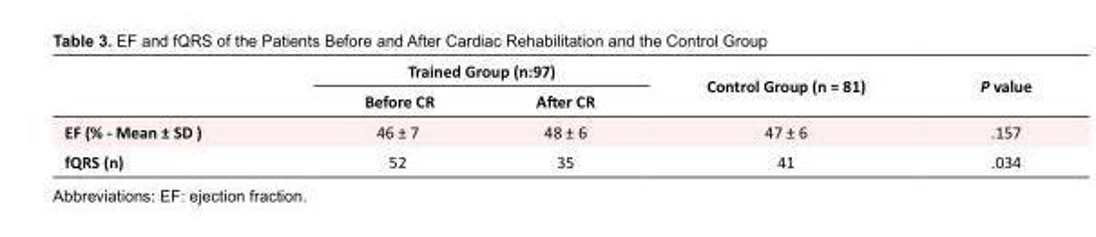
<table><thead><tr><td rowspan="2"></td><td colspan="2">Trained Group (n:97)</td><td rowspan="2">Control Group (n = 81)</td><td rowspan="2">P value</td></tr><tr><td>Before CR</td><td>After CR</td></tr></thead><tbody><tr><td>EF (% - Mean ± SD )</td><td>46 ± 7</td><td>48 ± 6</td><td>47 ± 6</td><td>.157</td></tr><tr><td>fQRS (n)</td><td>52</td><td>35</td><td>41</td><td>.034</td></tr></tbody></table>